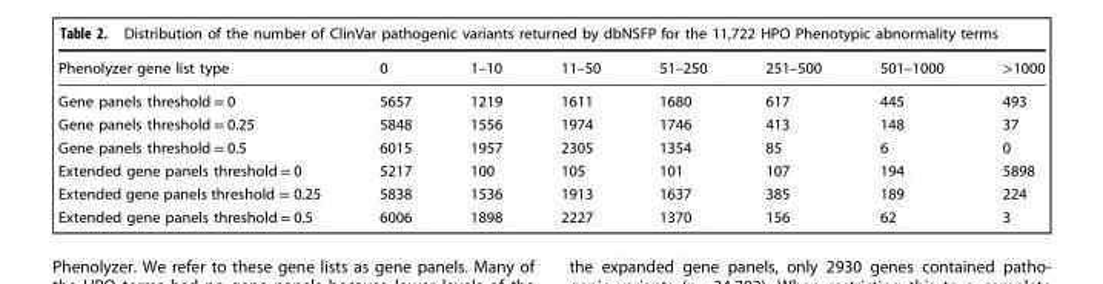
<table><thead><tr><td>Phenolyzer gene list type</td><td>0</td><td>1–10</td><td>11–50</td><td>51–250</td><td>251–500</td><td>501–1000</td><td>&gt;1000</td></tr></thead><tbody><tr><td>Gene panels threshold = 0</td><td>5657</td><td>1219</td><td>1611</td><td>1680</td><td>617</td><td>445</td><td>493</td></tr><tr><td>Gene panels threshold = 0.25</td><td>5848</td><td>1556</td><td>1974</td><td>1746</td><td>413</td><td>148</td><td>37</td></tr><tr><td>Gene panels threshold = 0.5</td><td>6015</td><td>1957</td><td>2305</td><td>1354</td><td>85</td><td>6</td><td>0</td></tr><tr><td>Extended gene panels threshold = 0</td><td>5217</td><td>100</td><td>105</td><td>101</td><td>107</td><td>194</td><td>5898</td></tr><tr><td>Extended gene panels threshold = 0.25</td><td>5838</td><td>1536</td><td>1913</td><td>1637</td><td>385</td><td>189</td><td>224</td></tr><tr><td>Extended gene panels threshold = 0.5</td><td>6006</td><td>1898</td><td>2227</td><td>1370</td><td>156</td><td>62</td><td>3</td></tr></tbody></table>